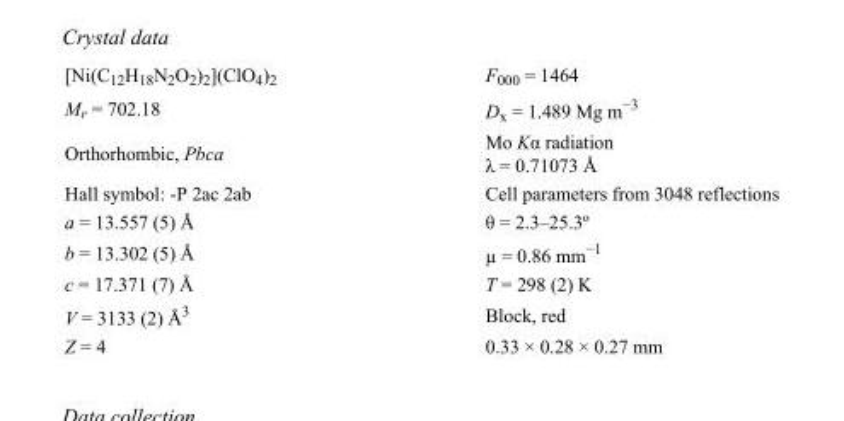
<table><tbody><tr><td>[Ni(C<sub>12</sub>H<sub>18</sub>N<sub>2</sub>O<sub>2</sub>)<sub>2</sub>](ClO<sub>4</sub>)<sub>2</sub></td><td>F<sub>000</sub> = 1464</td></tr><tr><td>M<sub>r</sub> = 702.18</td><td>D<sub>x</sub> = 1.489 Mg m<sup>−3</sup></td></tr><tr><td>Orthorhombic, Pbca</td><td>Mo Kα radiation λ = 0.71073 Å</td></tr><tr><td>Hall symbol: -P 2ac 2ab</td><td>Cell parameters from 3048 reflections</td></tr><tr><td>a = 13.557 (5) Å</td><td>θ = 2.3–25.3º</td></tr><tr><td>b = 13.302 (5) Å</td><td>µ = 0.86 mm<sup>−1</sup></td></tr><tr><td>c = 17.371 (7) Å</td><td>T = 298 (2) K</td></tr><tr><td>V = 3133 (2) Å<sup>3</sup></td><td>Block, red</td></tr><tr><td>Z = 4</td><td>0.33 × 0.28 × 0.27 mm</td></tr></tbody></table>